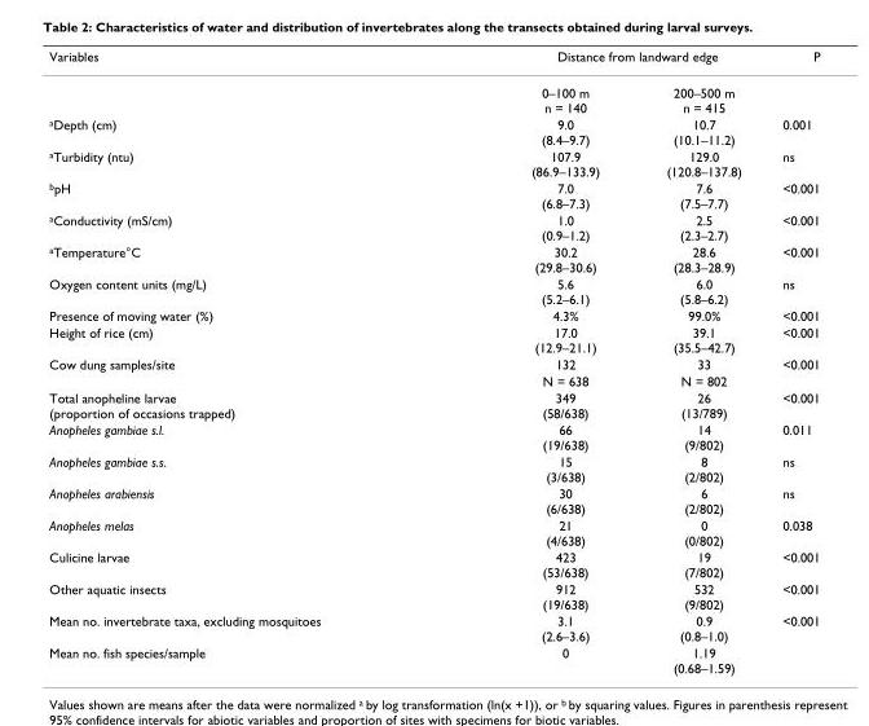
<table><thead><tr><td rowspan="2">Variables</td><td colspan="2">Distance from landward edge</td><td rowspan="2">P</td></tr><tr><td>0–100 m n = 140</td><td>200–500 m n = 415</td></tr></thead><tbody><tr><td><sup>a</sup>Depth (cm)</td><td>9.0 (8.4–9.7)</td><td>10.7 (10.1–11.2)</td><td>0.001</td></tr><tr><td><sup>a</sup>Turbidity (ntu)</td><td>107.9 (86.9–133.9)</td><td>129.0 (120.8–137.8)</td><td>ns</td></tr><tr><td><sup>b</sup>pH</td><td>7.0 (6.8–7.3)</td><td>7.6 (7.5–7.7)</td><td>&lt;0.001</td></tr><tr><td><sup>a</sup>Conductivity (mS/cm)</td><td>1.0 (0.9–1.2)</td><td>2.5 (2.3–2.7)</td><td>&lt;0.001</td></tr><tr><td><sup>a</sup>Temperature°C</td><td>30.2 (29.8–30.6)</td><td>28.6 (28.3–28.9)</td><td>&lt;0.001</td></tr><tr><td>Oxygen content units (mg/L)</td><td>5.6 (5.2–6.1)</td><td>6.0 (5.8–6.2)</td><td>ns</td></tr><tr><td>Presence of moving water (%)</td><td>4.3%</td><td>99.0%</td><td>&lt;0.001</td></tr><tr><td>Height of rice (cm)</td><td>17.0 (12.9–21.1)</td><td>39.1 (35.5–42.7)</td><td>&lt;0.001</td></tr><tr><td rowspan="2">Cow dung samples/site</td><td>132</td><td>33</td><td>&lt;0.001</td></tr><tr><td>N = 638</td><td>N = 802</td><td></td></tr><tr><td>Total anopheline larvae (proportion of occasions trapped)</td><td>349 (58/638)</td><td>26 (13/789)</td><td>&lt;0.001</td></tr><tr><td>Anopheles gambiae s.l.</td><td>66 (19/638)</td><td>14 (9/802)</td><td>0.011</td></tr><tr><td>Anopheles gambiae s.s.</td><td>15 (3/638)</td><td>8 (2/802)</td><td>ns</td></tr><tr><td>Anopheles arabiensis</td><td>30 (6/638)</td><td>6 (2/802)</td><td>ns</td></tr><tr><td>Anopheles melas</td><td>21 (4/638)</td><td>0 (0/802)</td><td>0.038</td></tr><tr><td>Culicine larvae</td><td>423 (53/638)</td><td>19 (7/802)</td><td>&lt;0.001</td></tr><tr><td>Other aquatic insects</td><td>912 (19/638)</td><td>532 (9/802)</td><td>&lt;0.001</td></tr><tr><td>Mean no. invertebrate taxa, excluding mosquitoes</td><td>3.1 (2.6–3.6)</td><td>0.9 (0.8–1.0)</td><td>&lt;0.001</td></tr><tr><td>Mean no. fish species/sample</td><td>0</td><td>1.19 (0.68–1.59)</td><td></td></tr></tbody></table>